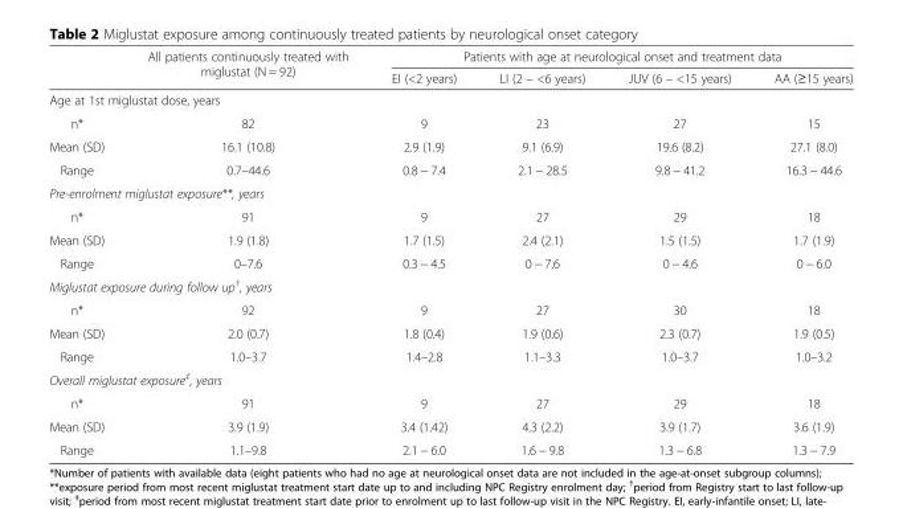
<table><thead><tr><td rowspan="2"></td><td rowspan="2">All patients continuously treated with miglustat (N = 92)</td><td colspan="4">Patients with age at neurological onset and treatment data</td></tr><tr><td>EI (&lt;2 years)</td><td>LI (2 – &lt;6 years)</td><td>JUV (6 – &lt;15 years)</td><td>AA (≥15 years)</td></tr></thead><tbody><tr><td colspan="6">Age at 1st miglustat dose, years</td></tr><tr><td>n*</td><td>82</td><td>9</td><td>23</td><td>27</td><td>15</td></tr><tr><td>Mean (SD)</td><td>16.1 (10.8)</td><td>2.9 (1.9)</td><td>9.1 (6.9)</td><td>19.6 (8.2)</td><td>27.1 (8.0)</td></tr><tr><td>Range</td><td>0.7–44.6</td><td>0.8 − 7.4</td><td>2.1 − 28.5</td><td>9.8 − 41.2</td><td>16.3 − 44.6</td></tr><tr><td colspan="6">Pre-enrolment miglustat exposure**, years</td></tr><tr><td>n*</td><td>91</td><td>9</td><td>27</td><td>29</td><td>18</td></tr><tr><td>Mean (SD)</td><td>1.9 (1.8)</td><td>1.7 (1.5)</td><td>2.4 (2.1)</td><td>1.5 (1.5)</td><td>1.7 (1.9)</td></tr><tr><td>Range</td><td>0–7.6</td><td>0.3 − 4.5</td><td>0 − 7.6</td><td>0 − 4.6</td><td>0 − 6.0</td></tr><tr><td colspan="6">Miglustat exposure during follow up<sup>†</sup>, years</td></tr><tr><td>n*</td><td>92</td><td>9</td><td>27</td><td>30</td><td>18</td></tr><tr><td>Mean (SD)</td><td>2.0 (0.7)</td><td>1.8 (0.4)</td><td>1.9 (0.6)</td><td>2.3 (0.7)</td><td>1.9 (0.5)</td></tr><tr><td>Range</td><td>1.0–3.7</td><td>1.4–2.8</td><td>1.1–3.3</td><td>1.0–3.7</td><td>1.0–3.2</td></tr><tr><td colspan="6">Overall miglustat exposure<sup>‡</sup>, years</td></tr><tr><td>n*</td><td>91</td><td>9</td><td>27</td><td>29</td><td>18</td></tr><tr><td>Mean (SD)</td><td>3.9 (1.9)</td><td>3.4 (1.42)</td><td>4.3 (2.2)</td><td>3.9 (1.7)</td><td>3.6 (1.9)</td></tr><tr><td>Range</td><td>1.1–9.8</td><td>2.1 − 6.0</td><td>1.6 − 9.8</td><td>1.3 − 6.8</td><td>1.3 − 7.9</td></tr></tbody></table>